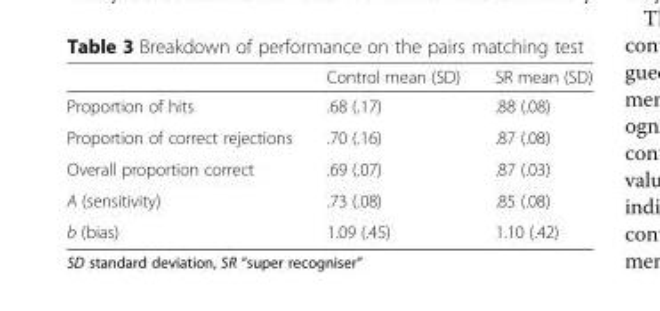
<table><thead><tr><td></td><td>Control mean (SD)</td><td>SR mean (SD)</td></tr></thead><tbody><tr><td>Proportion of hits</td><td>.68 (.17)</td><td>.88 (.08)</td></tr><tr><td>Proportion of correct rejections</td><td>.70 (.16)</td><td>.87 (.08)</td></tr><tr><td>Overall proportion correct</td><td>.69 (.07)</td><td>.87 (.03)</td></tr><tr><td>A (sensitivity)</td><td>.73 (.08)</td><td>.85 (.08)</td></tr><tr><td>b (bias)</td><td>1.09 (.45)</td><td>1.10 (.42)</td></tr></tbody></table>